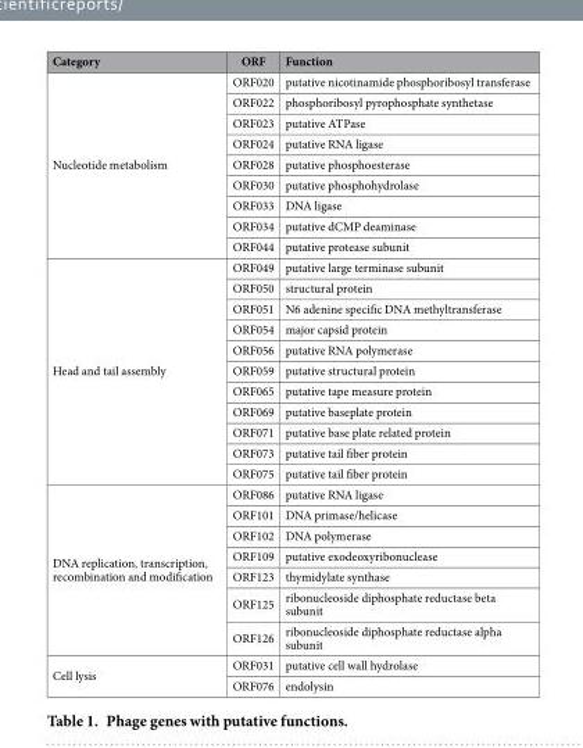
<table><thead><tr><td>Category</td><td>ORF</td><td>Function</td></tr></thead><tbody><tr><td rowspan="9">Nucleotide metabolism</td><td>ORF020</td><td>putative nicotinamide phosphoribosyl transferase</td></tr><tr><td>ORF022</td><td>phosphoribosyl pyrophosphate synthetase</td></tr><tr><td>ORF023</td><td>putative ATPase</td></tr><tr><td>ORF024</td><td>putative RNA ligase</td></tr><tr><td>ORF028</td><td>putative phosphoesterase</td></tr><tr><td>ORF030</td><td>putative phosphohydrolase</td></tr><tr><td>ORF033</td><td>DNA ligase</td></tr><tr><td>ORF034</td><td>putative dCMP deaminase</td></tr><tr><td>ORF044</td><td>putative protease subunit</td></tr><tr><td rowspan="11">Head and tail assembly</td><td>ORF049</td><td>putative large terminase subunit</td></tr><tr><td>ORF050</td><td>structural protein</td></tr><tr><td>ORF051</td><td>N6 adenine specific DNA methyltransferase</td></tr><tr><td>ORF054</td><td>major capsid protein</td></tr><tr><td>ORF056</td><td>putative RNA polymerase</td></tr><tr><td>ORF059</td><td>putative structural protein</td></tr><tr><td>ORF065</td><td>putative tape measure protein</td></tr><tr><td>ORF069</td><td>putative baseplate protein</td></tr><tr><td>ORF071</td><td>putative base plate related protein</td></tr><tr><td>ORF073</td><td>putative tail fiber protein</td></tr><tr><td>ORF075</td><td>putative tail fiber protein</td></tr><tr><td rowspan="7">DNA replication, transcription, recombination and modification</td><td>ORF086</td><td>putative RNA ligase</td></tr><tr><td>ORF101</td><td>DNA primase/helicase</td></tr><tr><td>ORF102</td><td>DNA polymerase</td></tr><tr><td>ORF109</td><td>putative exodeoxyribonuclease</td></tr><tr><td>ORF123</td><td>thymidylate synthase</td></tr><tr><td>ORF125</td><td>ribonucleoside diphosphate reductase beta subunit</td></tr><tr><td>ORF126</td><td>ribonucleoside diphosphate reductase alpha subunit</td></tr><tr><td rowspan="2">Cell lysis</td><td>ORF031</td><td>putative cell wall hydrolase</td></tr><tr><td>ORF076</td><td>endolysin</td></tr></tbody></table>